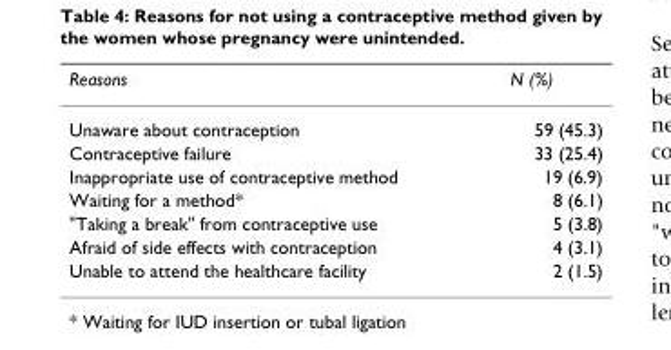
<table><thead><tr><td>Reasons</td><td>N (%)</td></tr></thead><tbody><tr><td>Unaware about contraception</td><td>59 (45.3)</td></tr><tr><td>Contraceptive failure</td><td>33 (25.4)</td></tr><tr><td>Inappropriate use of contraceptive method</td><td>19 (6.9)</td></tr><tr><td>Waiting for a method*</td><td>8 (6.1)</td></tr><tr><td>&quot;Taking a break&quot; from contraceptive use</td><td>5 (3.8)</td></tr><tr><td>Afraid of side effects with contraception</td><td>4 (3.1)</td></tr><tr><td>Unable to attend the healthcare facility</td><td>2 (1.5)</td></tr></tbody></table>